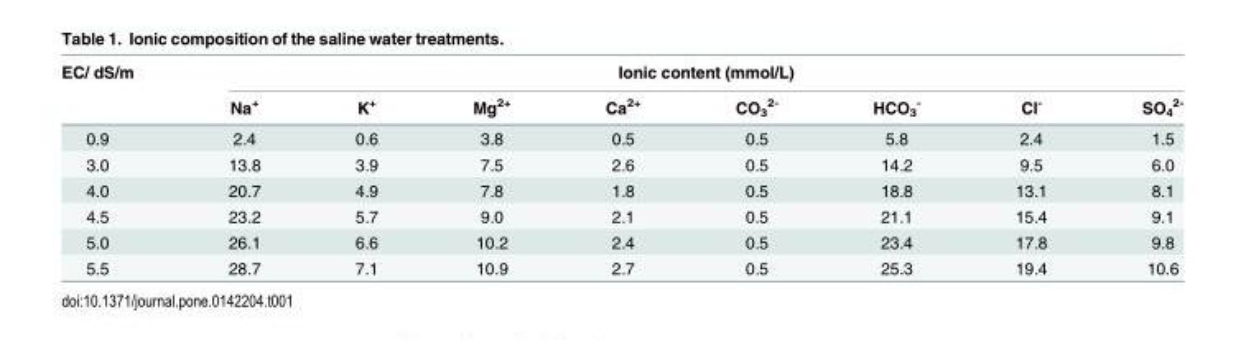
<table><thead><tr><td rowspan="2">EC/ dS/m</td><td colspan="8">Ionic content (mmol/L)</td></tr><tr><td>Na<sup>+</sup></td><td>K<sup>+</sup></td><td>Mg<sup>2+</sup></td><td>Ca<sup>2+</sup></td><td>CO<sub>3</sub> <sup>2-</sup></td><td>HCO<sub>3</sub> <sup>-</sup></td><td>Cl<sup>-</sup></td><td>SO<sub>4</sub> <sup>2-</sup></td></tr></thead><tbody><tr><td>0.9</td><td>2.4</td><td>0.6</td><td>3.8</td><td>0.5</td><td>0.5</td><td>5.8</td><td>2.4</td><td>1.5</td></tr><tr><td>3.0</td><td>13.8</td><td>3.9</td><td>7.5</td><td>2.6</td><td>0.5</td><td>14.2</td><td>9.5</td><td>6.0</td></tr><tr><td>4.0</td><td>20.7</td><td>4.9</td><td>7.8</td><td>1.8</td><td>0.5</td><td>18.8</td><td>13.1</td><td>8.1</td></tr><tr><td>4.5</td><td>23.2</td><td>5.7</td><td>9.0</td><td>2.1</td><td>0.5</td><td>21.1</td><td>15.4</td><td>9.1</td></tr><tr><td>5.0</td><td>26.1</td><td>6.6</td><td>10.2</td><td>2.4</td><td>0.5</td><td>23.4</td><td>17.8</td><td>9.8</td></tr><tr><td>5.5</td><td>28.7</td><td>7.1</td><td>10.9</td><td>2.7</td><td>0.5</td><td>25.3</td><td>19.4</td><td>10.6</td></tr></tbody></table>